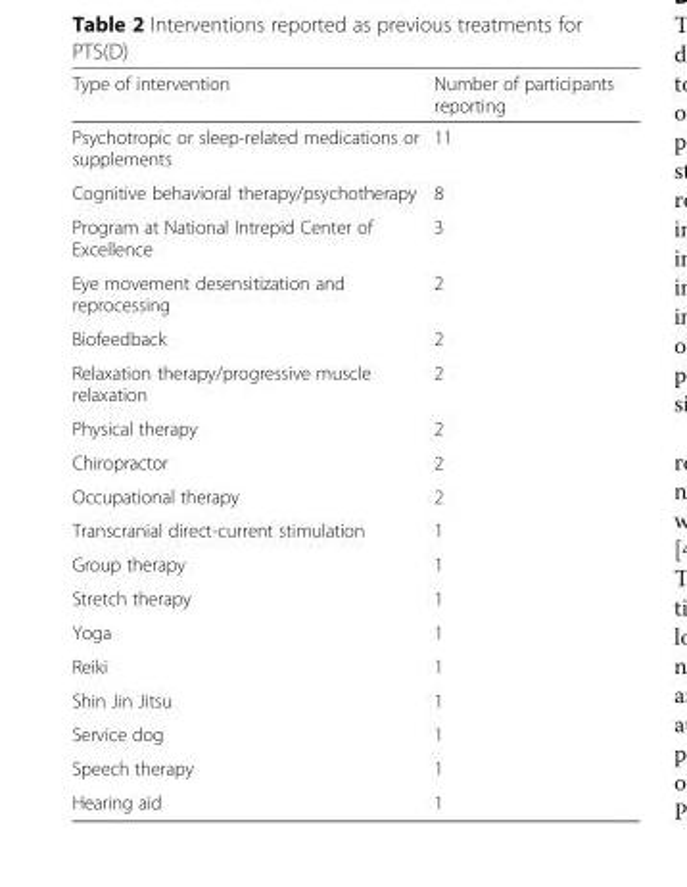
<table><thead><tr><td>Type of intervention</td><td>Number of participants reporting</td></tr></thead><tbody><tr><td>Psychotropic or sleep-related medications or supplements</td><td>11</td></tr><tr><td>Cognitive behavioral therapy/psychotherapy</td><td>8</td></tr><tr><td>Program at National Intrepid Center of Excellence</td><td>3</td></tr><tr><td>Eye movement desensitization and reprocessing</td><td>2</td></tr><tr><td>Biofeedback</td><td>2</td></tr><tr><td>Relaxation therapy/progressive muscle relaxation</td><td>2</td></tr><tr><td>Physical therapy</td><td>2</td></tr><tr><td>Chiropractor</td><td>2</td></tr><tr><td>Occupational therapy</td><td>2</td></tr><tr><td>Transcranial direct-current stimulation</td><td>1</td></tr><tr><td>Group therapy</td><td>1</td></tr><tr><td>Stretch therapy</td><td>1</td></tr><tr><td>Yoga</td><td>1</td></tr><tr><td>Reiki</td><td>1</td></tr><tr><td>Shin Jin Jitsu</td><td>1</td></tr><tr><td>Service dog</td><td>1</td></tr><tr><td>Speech therapy</td><td>1</td></tr><tr><td>Hearing aid</td><td>1</td></tr></tbody></table>